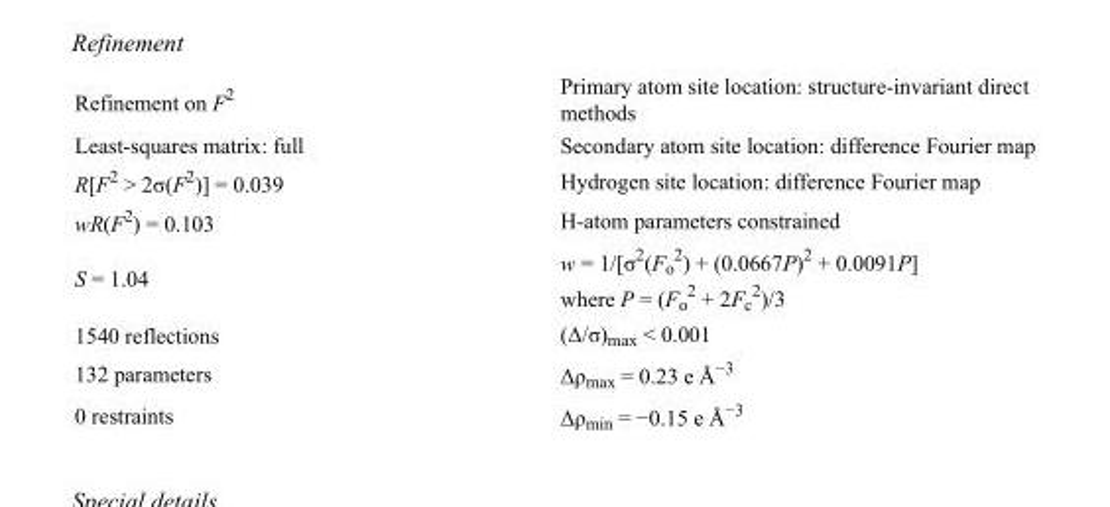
<table><tbody><tr><td>Refinement on F<sup>2</sup></td><td>Primary atom site location: structure-invariant direct methods</td></tr><tr><td>Least-squares matrix: full</td><td>Secondary atom site location: difference Fourier map</td></tr><tr><td>R[F<sup>2</sup> &gt; 2σ(F<sup>2</sup>)] = 0.039</td><td>Hydrogen site location: difference Fourier map</td></tr><tr><td>wR(F<sup>2</sup>) = 0.103</td><td>H-atom parameters constrained</td></tr><tr><td>S = 1.04</td><td>w = 1/[σ<sup>2</sup>(F<sub>o</sub> <sup>2</sup>) + (0.0667P)<sup>2</sup> + 0.0091P] where P = (F<sub>o</sub> <sup>2</sup> + 2F<sub>c</sub> <sup>2</sup>)/3</td></tr><tr><td>1540 reflections</td><td>(Δ/σ)<sub>max</sub> &lt; 0.001</td></tr><tr><td>132 parameters</td><td>Δρ<sub>max</sub> = 0.23 e Å<sup>−3</sup></td></tr><tr><td>0 restraints</td><td>Δρ<sub>min</sub> = −0.15 e Å<sup>−3</sup></td></tr></tbody></table>